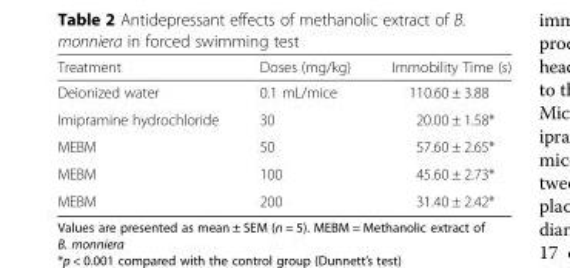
<table><thead><tr><td>Treatment</td><td>Doses (mg/kg)</td><td>Immobility Time (s)</td></tr></thead><tbody><tr><td>Deionized water</td><td>0.1 mL/mice</td><td>110.60 ± 3.88</td></tr><tr><td>Imipramine hydrochloride</td><td>30</td><td>20.00 ± 1.58*</td></tr><tr><td>MEBM</td><td>50</td><td>57.60 ± 2.65*</td></tr><tr><td>MEBM</td><td>100</td><td>45.60 ± 2.73*</td></tr><tr><td>MEBM</td><td>200</td><td>31.40 ± 2.42*</td></tr></tbody></table>